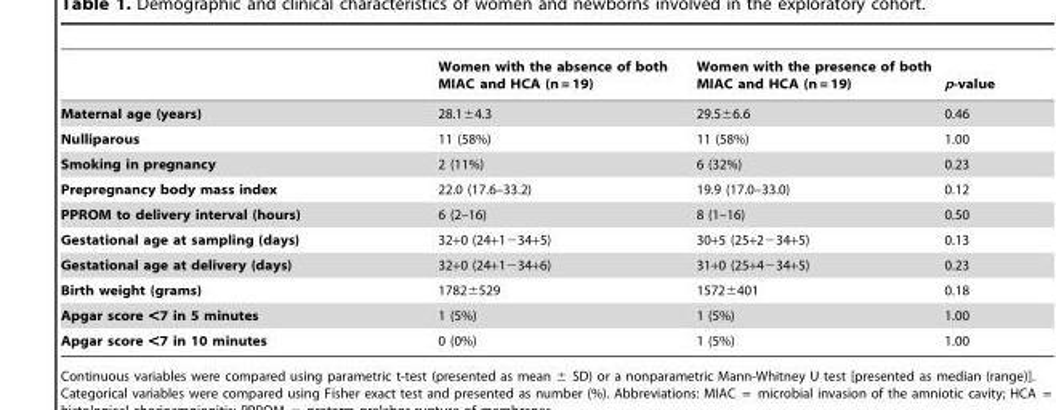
<table><thead><tr><td></td><td>Women with the absence of both MIAC and HCA (n = 19)</td><td>Women with the presence of both MIAC and HCA (n = 19)</td><td>p-value</td></tr></thead><tbody><tr><td>Maternal age (years)</td><td>28.1±4.3</td><td>29.5±6.6</td><td>0.46</td></tr><tr><td>Nulliparous</td><td>11 (58%)</td><td>11 (58%)</td><td>1.00</td></tr><tr><td>Smoking in pregnancy</td><td>2 (11%)</td><td>6 (32%)</td><td>0.23</td></tr><tr><td>Prepregnancy body mass index</td><td>22.0 (17.6–33.2)</td><td>19.9 (17.0–33.0)</td><td>0.12</td></tr><tr><td>PPROM to delivery interval (hours)</td><td>6 (2–16)</td><td>8 (1–16)</td><td>0.50</td></tr><tr><td>Gestational age at sampling (days)</td><td>32+0 (24+1−34+5)</td><td>30+5 (25+2−34+5)</td><td>0.13</td></tr><tr><td>Gestational age at delivery (days)</td><td>32+0 (24+1−34+6)</td><td>31+0 (25+4−34+5)</td><td>0.23</td></tr><tr><td>Birth weight (grams)</td><td>1782±529</td><td>1572±401</td><td>0.18</td></tr><tr><td>Apgar score &lt;7 in 5 minutes</td><td>1 (5%)</td><td>1 (5%)</td><td>1.00</td></tr><tr><td>Apgar score &lt;7 in 10 minutes</td><td>0 (0%)</td><td>1 (5%)</td><td>1.00</td></tr></tbody></table>